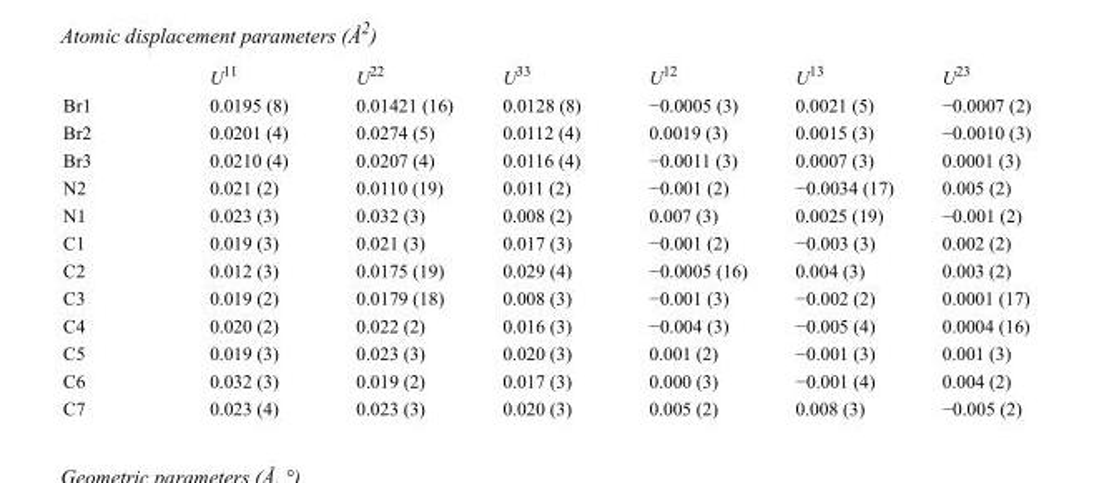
<table><thead><tr><td></td><td>U<sup>11</sup></td><td>U<sup>22</sup></td><td>U<sup>33</sup></td><td>U<sup>12</sup></td><td>U<sup>13</sup></td><td>U<sup>23</sup></td></tr></thead><tbody><tr><td>Br1</td><td>0.0195 (8)</td><td>0.01421 (16)</td><td>0.0128 (8)</td><td>−0.0005 (3)</td><td>0.0021 (5)</td><td>−0.0007 (2)</td></tr><tr><td>Br2</td><td>0.0201 (4)</td><td>0.0274 (5)</td><td>0.0112 (4)</td><td>0.0019 (3)</td><td>0.0015 (3)</td><td>−0.0010 (3)</td></tr><tr><td>Br3</td><td>0.0210 (4)</td><td>0.0207 (4)</td><td>0.0116 (4)</td><td>−0.0011 (3)</td><td>0.0007 (3)</td><td>0.0001 (3)</td></tr><tr><td>N2</td><td>0.021 (2)</td><td>0.0110 (19)</td><td>0.011 (2)</td><td>−0.001 (2)</td><td>−0.0034 (17)</td><td>0.005 (2)</td></tr><tr><td>N1</td><td>0.023 (3)</td><td>0.032 (3)</td><td>0.008 (2)</td><td>0.007 (3)</td><td>0.0025 (19)</td><td>−0.001 (2)</td></tr><tr><td>C1</td><td>0.019 (3)</td><td>0.021 (3)</td><td>0.017 (3)</td><td>−0.001 (2)</td><td>−0.003 (3)</td><td>0.002 (2)</td></tr><tr><td>C2</td><td>0.012 (3)</td><td>0.0175 (19)</td><td>0.029 (4)</td><td>−0.0005 (16)</td><td>0.004 (3)</td><td>0.003 (2)</td></tr><tr><td>C3</td><td>0.019 (2)</td><td>0.0179 (18)</td><td>0.008 (3)</td><td>−0.001 (3)</td><td>−0.002 (2)</td><td>0.0001 (17)</td></tr><tr><td>C4</td><td>0.020 (2)</td><td>0.022 (2)</td><td>0.016 (3)</td><td>−0.004 (3)</td><td>−0.005 (4)</td><td>0.0004 (16)</td></tr><tr><td>C5</td><td>0.019 (3)</td><td>0.023 (3)</td><td>0.020 (3)</td><td>0.001 (2)</td><td>−0.001 (3)</td><td>0.001 (3)</td></tr><tr><td>C6</td><td>0.032 (3)</td><td>0.019 (2)</td><td>0.017 (3)</td><td>0.000 (3)</td><td>−0.001 (4)</td><td>0.004 (2)</td></tr><tr><td>C7</td><td>0.023 (4)</td><td>0.023 (3)</td><td>0.020 (3)</td><td>0.005 (2)</td><td>0.008 (3)</td><td>−0.005 (2)</td></tr></tbody></table>